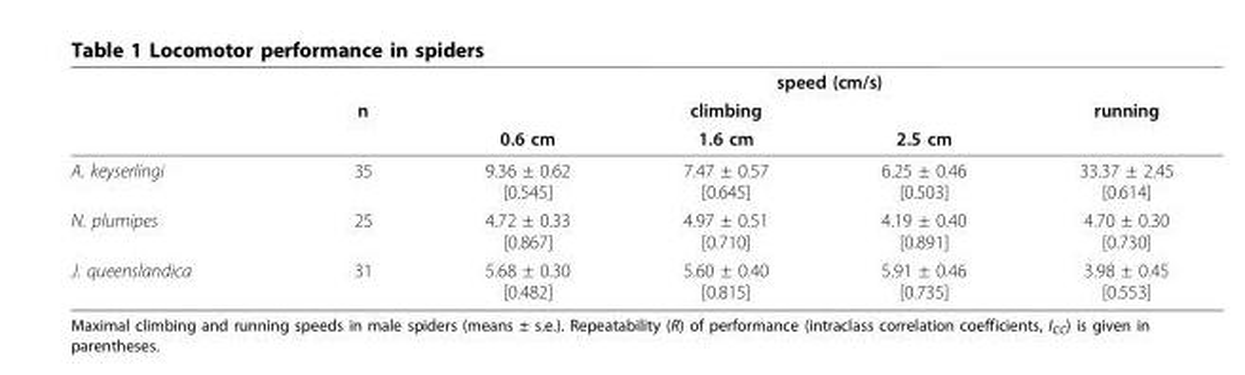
<table><thead><tr><td rowspan="3"></td><td rowspan="3">n</td><td colspan="4">speed (cm/s)</td></tr><tr><td colspan="3">climbing</td><td rowspan="2">running</td></tr><tr><td>0.6 cm</td><td>1.6 cm</td><td>2.5 cm</td></tr></thead><tbody><tr><td>A. keyserlingi</td><td>35</td><td>9.36 ± 0.62 [0.545]</td><td>7.47 ± 0.57 [0.645]</td><td>6.25 ± 0.46 [0.503]</td><td>33.37 ± 2.45 [0.614]</td></tr><tr><td>N. plumipes</td><td>25</td><td>4.72 ± 0.33 [0.867]</td><td>4.97 ± 0.51 [0.710]</td><td>4.19 ± 0.40 [0.891]</td><td>4.70 ± 0.30 [0.730]</td></tr><tr><td>J. queenslandica</td><td>31</td><td>5.68 ± 0.30 [0.482]</td><td>5.60 ± 0.40 [0.815]</td><td>5.91 ± 0.46 [0.735]</td><td>3.98 ± 0.45 [0.553]</td></tr></tbody></table>